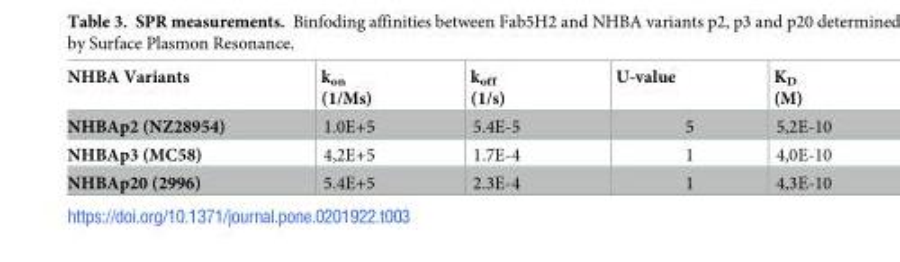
<table><thead><tr><td>NHBA Variants</td><td>k<sub>on</sub> (1/Ms)</td><td>k<sub>off</sub> (1/s)</td><td>U-value</td><td>K<sub>D</sub> (M)</td></tr></thead><tbody><tr><td>NHBAp2 (NZ28954)</td><td>1.0E+5</td><td>5.4E-5</td><td>5</td><td>5,2E-10</td></tr><tr><td>NHBAp3 (MC58)</td><td>4,2E+5</td><td>1.7E-4</td><td>1</td><td>4,0E-10</td></tr><tr><td>NHBAp20 (2996)</td><td>5.4E+5</td><td>2.3E-4</td><td>1</td><td>4,3E-10</td></tr></tbody></table>